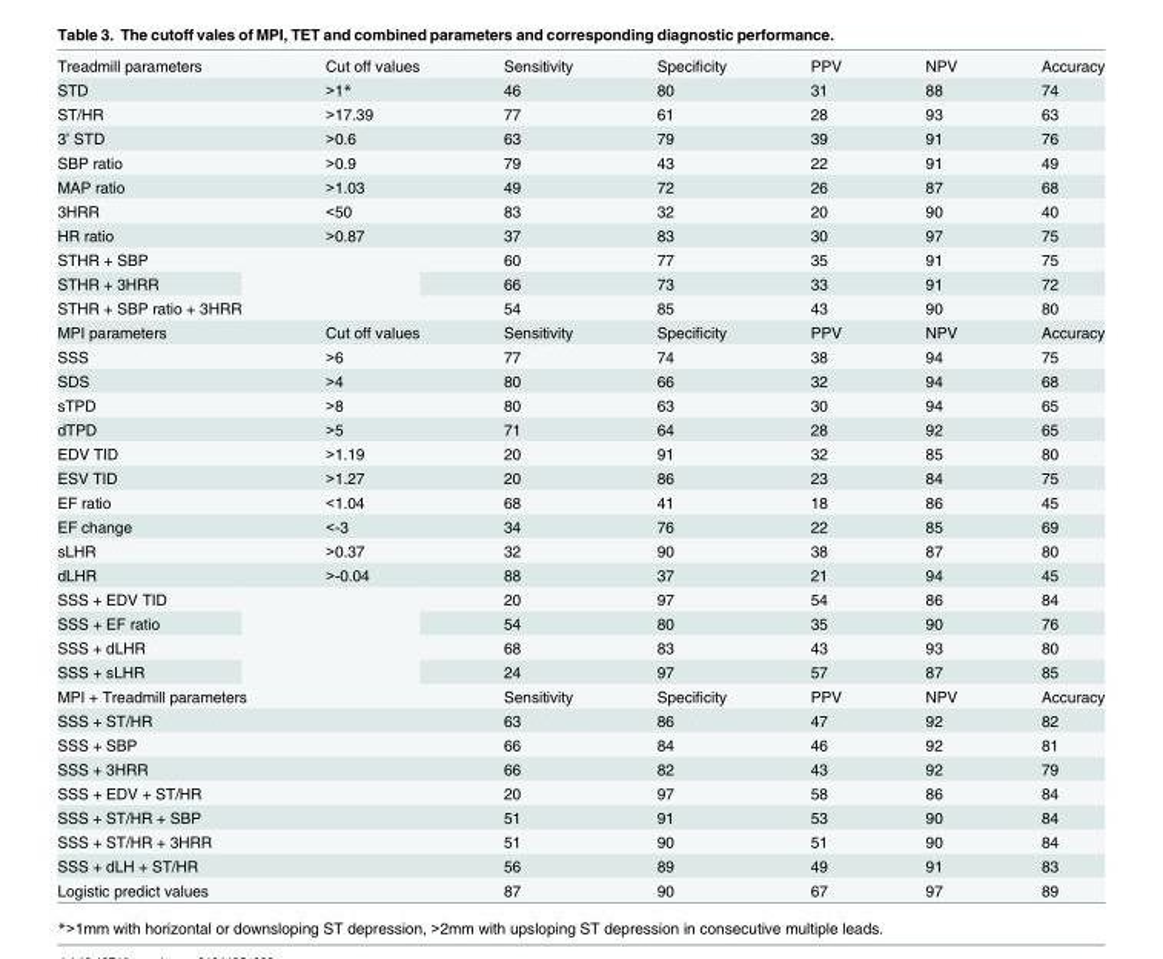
<table><tbody><tr><td>Treadmill parameters</td><td>Cut off values</td><td>Sensitivity</td><td>Specificity</td><td>PPV</td><td>NPV</td><td>Accuracy</td></tr><tr><td>STD</td><td>&gt;1*</td><td>46</td><td>80</td><td>31</td><td>88</td><td>74</td></tr><tr><td>ST/HR</td><td>&gt;17.39</td><td>77</td><td>61</td><td>28</td><td>93</td><td>63</td></tr><tr><td>3’ STD</td><td>&gt;0.6</td><td>63</td><td>79</td><td>39</td><td>91</td><td>76</td></tr><tr><td>SBP ratio</td><td>&gt;0.9</td><td>79</td><td>43</td><td>22</td><td>91</td><td>49</td></tr><tr><td>MAP ratio</td><td>&gt;1.03</td><td>49</td><td>72</td><td>26</td><td>87</td><td>68</td></tr><tr><td>3HRR</td><td>&lt;50</td><td>83</td><td>32</td><td>20</td><td>90</td><td>40</td></tr><tr><td>HR ratio</td><td>&gt;0.87</td><td>37</td><td>83</td><td>30</td><td>97</td><td>75</td></tr><tr><td>STHR + SBP</td><td rowspan="3"></td><td>60</td><td>77</td><td>35</td><td>91</td><td>75</td></tr><tr><td>STHR + 3HRR</td><td>66</td><td>73</td><td>33</td><td>91</td><td>72</td></tr><tr><td>STHR + SBP ratio + 3HRR</td><td>54</td><td>85</td><td>43</td><td>90</td><td>80</td></tr><tr><td>MPI parameters</td><td>Cut off values</td><td>Sensitivity</td><td>Specificity</td><td>PPV</td><td>NPV</td><td>Accuracy</td></tr><tr><td>SSS</td><td>&gt;6</td><td>77</td><td>74</td><td>38</td><td>94</td><td>75</td></tr><tr><td>SDS</td><td>&gt;4</td><td>80</td><td>66</td><td>32</td><td>94</td><td>68</td></tr><tr><td>sTPD</td><td>&gt;8</td><td>80</td><td>63</td><td>30</td><td>94</td><td>65</td></tr><tr><td>dTPD</td><td>&gt;5</td><td>71</td><td>64</td><td>28</td><td>92</td><td>65</td></tr><tr><td>EDV TID</td><td>&gt;1.19</td><td>20</td><td>91</td><td>32</td><td>85</td><td>80</td></tr><tr><td>ESV TID</td><td>&gt;1.27</td><td>20</td><td>86</td><td>23</td><td>84</td><td>75</td></tr><tr><td>EF ratio</td><td>&lt;1.04</td><td>68</td><td>41</td><td>18</td><td>86</td><td>45</td></tr><tr><td>EF change</td><td>&lt;-3</td><td>34</td><td>76</td><td>22</td><td>85</td><td>69</td></tr><tr><td>sLHR</td><td>&gt;0.37</td><td>32</td><td>90</td><td>38</td><td>87</td><td>80</td></tr><tr><td>dLHR</td><td>&gt;-0.04</td><td>88</td><td>37</td><td>21</td><td>94</td><td>45</td></tr><tr><td>SSS + EDV TID</td><td rowspan="4"></td><td>20</td><td>97</td><td>54</td><td>86</td><td>84</td></tr><tr><td>SSS + EF ratio</td><td>54</td><td>80</td><td>35</td><td>90</td><td>76</td></tr><tr><td>SSS + dLHR</td><td>68</td><td>83</td><td>43</td><td>93</td><td>80</td></tr><tr><td>SSS + sLHR</td><td>24</td><td>97</td><td>57</td><td>87</td><td>85</td></tr><tr><td colspan="2">MPI + Treadmill parameters</td><td>Sensitivity</td><td>Specificity</td><td>PPV</td><td>NPV</td><td>Accuracy</td></tr><tr><td colspan="2">SSS + ST/HR</td><td>63</td><td>86</td><td>47</td><td>92</td><td>82</td></tr><tr><td colspan="2">SSS + SBP</td><td>66</td><td>84</td><td>46</td><td>92</td><td>81</td></tr><tr><td colspan="2">SSS + 3HRR</td><td>66</td><td>82</td><td>43</td><td>92</td><td>79</td></tr><tr><td colspan="2">SSS + EDV + ST/HR</td><td>20</td><td>97</td><td>58</td><td>86</td><td>84</td></tr><tr><td colspan="2">SSS + ST/HR + SBP</td><td>51</td><td>91</td><td>53</td><td>90</td><td>84</td></tr><tr><td colspan="2">SSS + ST/HR + 3HRR</td><td>51</td><td>90</td><td>51</td><td>90</td><td>84</td></tr><tr><td colspan="2">SSS + dLH + ST/HR</td><td>56</td><td>89</td><td>49</td><td>91</td><td>83</td></tr><tr><td colspan="2">Logistic predict values</td><td>87</td><td>90</td><td>67</td><td>97</td><td>89</td></tr></tbody></table>